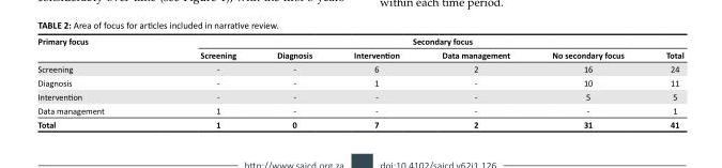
<table><thead><tr><td rowspan="2">Primary focus</td><td colspan="6">Secondary focus</td></tr><tr><td>Screening</td><td>Diagnosis</td><td>Intervention</td><td>Data management</td><td>No secondary focus</td><td>Total</td></tr></thead><tbody><tr><td>Screening</td><td>-</td><td>-</td><td>6</td><td>2</td><td>16</td><td>24</td></tr><tr><td>Diagnosis</td><td>-</td><td>-</td><td>1</td><td>-</td><td>10</td><td>11</td></tr><tr><td>Intervention</td><td>-</td><td>-</td><td>-</td><td>-</td><td>5</td><td>5</td></tr><tr><td>Data management</td><td>1</td><td>-</td><td>-</td><td>-</td><td>-</td><td>1</td></tr><tr><td>Total</td><td>1</td><td>0</td><td>7</td><td>2</td><td>31</td><td>41</td></tr></tbody></table>